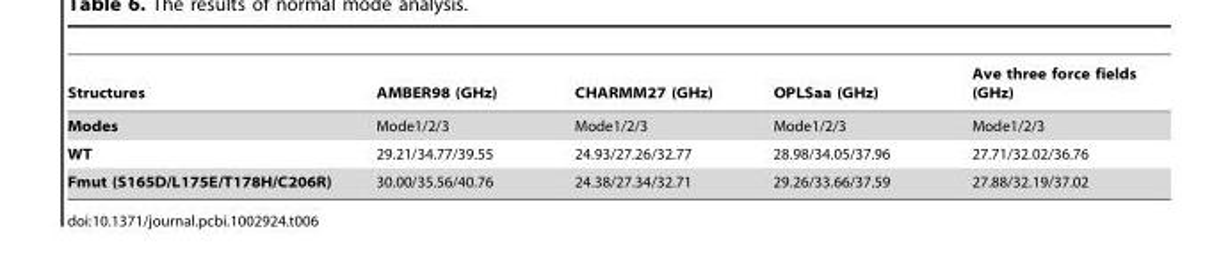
<table><thead><tr><td>Structures</td><td>AMBER98 (GHz)</td><td>CHARMM27 (GHz)</td><td>OPLSaa (GHz)</td><td>Ave three force fields (GHz)</td></tr></thead><tbody><tr><td>Modes</td><td>Mode1/2/3</td><td>Mode1/2/3</td><td>Mode1/2/3</td><td>Mode1/2/3</td></tr><tr><td>WT</td><td>29.21/34.77/39.55</td><td>24.93/27.26/32.77</td><td>28.98/34.05/37.96</td><td>27.71/32.02/36.76</td></tr><tr><td>Fmut (S165D/L175E/T178H/C206R)</td><td>30.00/35.56/40.76</td><td>24.38/27.34/32.71</td><td>29.26/33.66/37.59</td><td>27.88/32.19/37.02</td></tr></tbody></table>